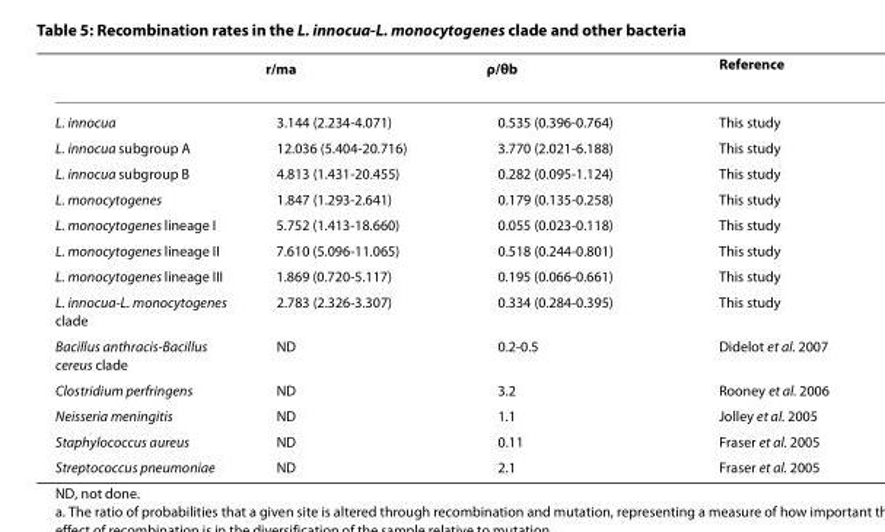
<table><thead><tr><td></td><td>r/m<sup>a</sup></td><td>ρ/θ<sup>b</sup></td><td>Reference</td></tr></thead><tbody><tr><td>L. innocua</td><td>3.144 (2.234-4.071)</td><td>0.535 (0.396-0.764)</td><td>This study</td></tr><tr><td>L. innocua subgroup A</td><td>12.036 (5.404-20.716)</td><td>3.770 (2.021-6.188)</td><td>This study</td></tr><tr><td>L. innocua subgroup B</td><td>4.813 (1.431-20.455)</td><td>0.282 (0.095-1.124)</td><td>This study</td></tr><tr><td>L. monocytogenes</td><td>1.847 (1.293-2.641)</td><td>0.179 (0.135-0.258)</td><td>This study</td></tr><tr><td>L. monocytogenes lineage I</td><td>5.752 (1.413-18.660)</td><td>0.055 (0.023-0.118)</td><td>This study</td></tr><tr><td>L. monocytogenes lineage II</td><td>7.610 (5.096-11.065)</td><td>0.518 (0.244-0.801)</td><td>This study</td></tr><tr><td>L. monocytogenes lineage III</td><td>1.869 (0.720-5.117)</td><td>0.195 (0.066-0.661)</td><td>This study</td></tr><tr><td>L. innocua-L. monocytogenes clade</td><td>2.783 (2.326-3.307)</td><td>0.334 (0.284-0.395)</td><td>This study</td></tr><tr><td>Bacillus anthracis-Bacillus cereus clade</td><td>ND</td><td>0.2-0.5</td><td>Didelot et al. 2007</td></tr><tr><td>Clostridium perfringens</td><td>ND</td><td>3.2</td><td>Rooney et al. 2006</td></tr><tr><td>Neisseria meningitis</td><td>ND</td><td>1.1</td><td>Jolley et al. 2005</td></tr><tr><td>Staphylococcus aureus</td><td>ND</td><td>0.11</td><td>Fraser et al. 2005</td></tr><tr><td>Streptococcus pneumoniae</td><td>ND</td><td>2.1</td><td>Fraser et al. 2005</td></tr></tbody></table>